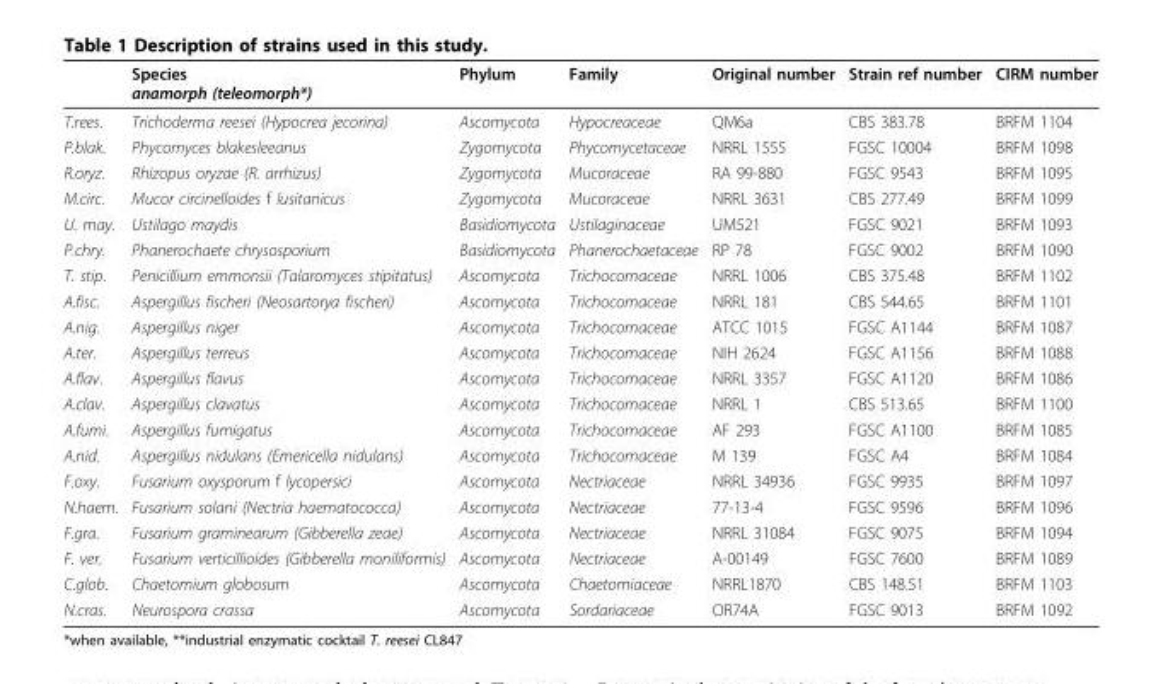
<table><thead><tr><td></td><td>Species anamorph (teleomorph*)</td><td>Phylum</td><td>Family</td><td>Original number</td><td>Strain ref number</td><td>CIRM number</td></tr></thead><tbody><tr><td>T.rees.</td><td>Trichoderma reesei (Hypocrea jecorina)</td><td>Ascomycota</td><td>Hypocreaceae</td><td>QM6a</td><td>CBS 383.78</td><td>BRFM 1104</td></tr><tr><td>P.blak.</td><td>Phycomyces blakesleeanus</td><td>Zygomycota</td><td>Phycomycetaceae</td><td>NRRL 1555</td><td>FGSC 10004</td><td>BRFM 1098</td></tr><tr><td>R.oryz.</td><td>Rhizopus oryzae (R. arrhizus)</td><td>Zygomycota</td><td>Mucoraceae</td><td>RA 99-880</td><td>FGSC 9543</td><td>BRFM 1095</td></tr><tr><td>M.circ.</td><td>Mucor circinelloides f lusitanicus</td><td>Zygomycota</td><td>Mucoraceae</td><td>NRRL 3631</td><td>CBS 277.49</td><td>BRFM 1099</td></tr><tr><td>U. may.</td><td>Ustilago maydis</td><td>Basidiomycota</td><td>Ustilaginaceae</td><td>UM521</td><td>FGSC 9021</td><td>BRFM 1093</td></tr><tr><td>P.chry.</td><td>Phanerochaete chrysosporium</td><td>Basidiomycota</td><td>Phanerochaetaceae</td><td>RP 78</td><td>FGSC 9002</td><td>BRFM 1090</td></tr><tr><td>T. stip.</td><td>Penicillium emmonsii (Talaromyces stipitatus)</td><td>Ascomycota</td><td>Trichocomaceae</td><td>NRRL 1006</td><td>CBS 375.48</td><td>BRFM 1102</td></tr><tr><td>A.fisc.</td><td>Aspergillus fischeri (Neosartorya fischeri)</td><td>Ascomycota</td><td>Trichocomaceae</td><td>NRRL 181</td><td>CBS 544.65</td><td>BRFM 1101</td></tr><tr><td>A.nig.</td><td>Aspergillus niger</td><td>Ascomycota</td><td>Trichocomaceae</td><td>ATCC 1015</td><td>FGSC A1144</td><td>BRFM 1087</td></tr><tr><td>A.ter.</td><td>Aspergillus terreus</td><td>Ascomycota</td><td>Trichocomaceae</td><td>NIH 2624</td><td>FGSC A1156</td><td>BRFM 1088</td></tr><tr><td>A.flav.</td><td>Aspergillus flavus</td><td>Ascomycota</td><td>Trichocomaceae</td><td>NRRL 3357</td><td>FGSC A1120</td><td>BRFM 1086</td></tr><tr><td>A.clav.</td><td>Aspergillus clavatus</td><td>Ascomycota</td><td>Trichocomaceae</td><td>NRRL 1</td><td>CBS 513.65</td><td>BRFM 1100</td></tr><tr><td>A.fumi.</td><td>Aspergillus fumigatus</td><td>Ascomycota</td><td>Trichocomaceae</td><td>AF 293</td><td>FGSC A1100</td><td>BRFM 1085</td></tr><tr><td>A.nid.</td><td>Aspergillus nidulans (Emericella nidulans)</td><td>Ascomycota</td><td>Trichocomaceae</td><td>M 139</td><td>FGSC A4</td><td>BRFM 1084</td></tr><tr><td>F.oxy.</td><td>Fusarium oxysporum f lycopersici</td><td>Ascomycota</td><td>Nectriaceae</td><td>NRRL 34936</td><td>FGSC 9935</td><td>BRFM 1097</td></tr><tr><td>N.haem.</td><td>Fusarium solani (Nectria haematococca)</td><td>Ascomycota</td><td>Nectriaceae</td><td>77-13-4</td><td>FGSC 9596</td><td>BRFM 1096</td></tr><tr><td>F.gra.</td><td>Fusarium graminearum (Gibberella zeae)</td><td>Ascomycota</td><td>Nectriaceae</td><td>NRRL 31084</td><td>FGSC 9075</td><td>BRFM 1094</td></tr><tr><td>F. ver.</td><td>Fusarium verticillioides (Gibberella moniliformis)</td><td>Ascomycota</td><td>Nectriaceae</td><td>A-00149</td><td>FGSC 7600</td><td>BRFM 1089</td></tr><tr><td>C.glob.</td><td>Chaetomium globosum</td><td>Ascomycota</td><td>Chaetomiaceae</td><td>NRRL1870</td><td>CBS 148.51</td><td>BRFM 1103</td></tr><tr><td>N.cras.</td><td>Neurospora crassa</td><td>Ascomycota</td><td>Sordariaceae</td><td>OR74A</td><td>FGSC 9013</td><td>BRFM 1092</td></tr></tbody></table>